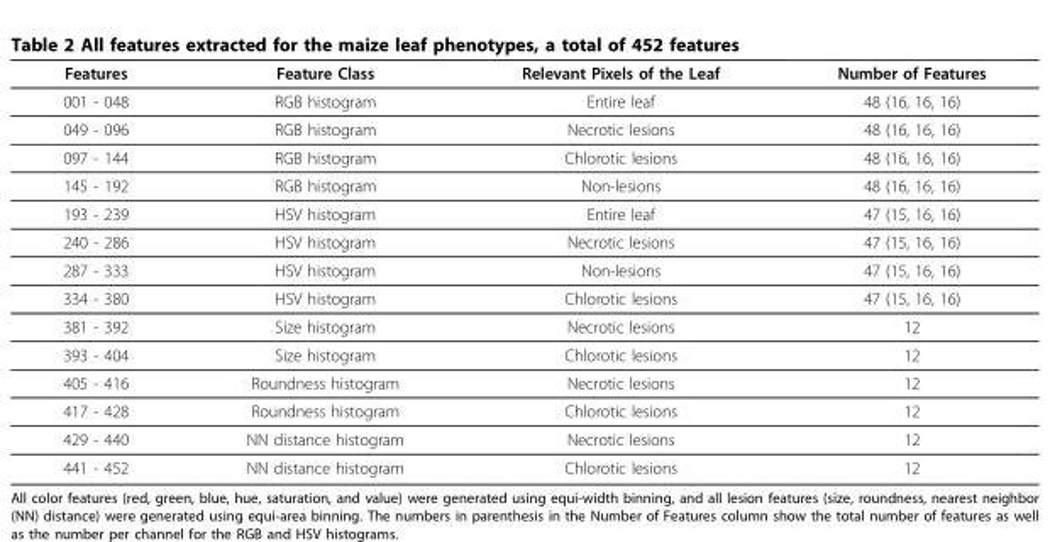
<table><thead><tr><td>Features</td><td>Feature Class</td><td>Relevant Pixels of the Leaf</td><td>Number of Features</td></tr></thead><tbody><tr><td>001 - 048</td><td>RGB histogram</td><td>Entire leaf</td><td>48 (16, 16, 16)</td></tr><tr><td>049 - 096</td><td>RGB histogram</td><td>Necrotic lesions</td><td>48 (16, 16, 16)</td></tr><tr><td>097 - 144</td><td>RGB histogram</td><td>Chlorotic lesions</td><td>48 (16, 16, 16)</td></tr><tr><td>145 - 192</td><td>RGB histogram</td><td>Non-lesions</td><td>48 (16, 16, 16)</td></tr><tr><td>193 - 239</td><td>HSV histogram</td><td>Entire leaf</td><td>47 (15, 16, 16)</td></tr><tr><td>240 - 286</td><td>HSV histogram</td><td>Necrotic lesions</td><td>47 (15, 16, 16)</td></tr><tr><td>287 - 333</td><td>HSV histogram</td><td>Non-lesions</td><td>47 (15, 16, 16)</td></tr><tr><td>334 - 380</td><td>HSV histogram</td><td>Chlorotic lesions</td><td>47 (15, 16, 16)</td></tr><tr><td>381 - 392</td><td>Size histogram</td><td>Necrotic lesions</td><td>12</td></tr><tr><td>393 - 404</td><td>Size histogram</td><td>Chlorotic lesions</td><td>12</td></tr><tr><td>405 - 416</td><td>Roundness histogram</td><td>Necrotic lesions</td><td>12</td></tr><tr><td>417 - 428</td><td>Roundness histogram</td><td>Chlorotic lesions</td><td>12</td></tr><tr><td>429 - 440</td><td>NN distance histogram</td><td>Necrotic lesions</td><td>12</td></tr><tr><td>441 - 452</td><td>NN distance histogram</td><td>Chlorotic lesions</td><td>12</td></tr></tbody></table>